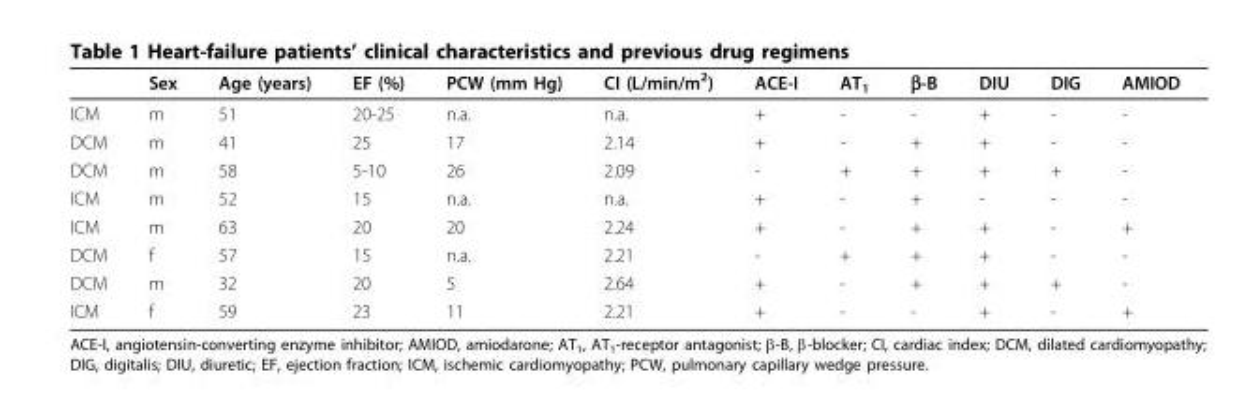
<table><thead><tr><td></td><td>Sex</td><td>Age (years)</td><td>EF (%)</td><td>PCW (mm Hg)</td><td>CI (L/min/m<sup>2</sup>)</td><td>ACE-I</td><td>AT<sub>1</sub></td><td>β-B</td><td>DIU</td><td>DIG</td><td>AMIOD</td></tr></thead><tbody><tr><td>ICM</td><td>m</td><td>51</td><td>20-25</td><td>n.a.</td><td>n.a.</td><td>+</td><td>-</td><td>-</td><td>+</td><td>-</td><td>-</td></tr><tr><td>DCM</td><td>m</td><td>41</td><td>25</td><td>17</td><td>2.14</td><td>+</td><td>-</td><td>+</td><td>+</td><td>-</td><td>-</td></tr><tr><td>DCM</td><td>m</td><td>58</td><td>5-10</td><td>26</td><td>2.09</td><td>-</td><td>+</td><td>+</td><td>+</td><td>+</td><td>-</td></tr><tr><td>ICM</td><td>m</td><td>52</td><td>15</td><td>n.a.</td><td>n.a.</td><td>+</td><td>-</td><td>+</td><td>-</td><td>-</td><td>-</td></tr><tr><td>ICM</td><td>m</td><td>63</td><td>20</td><td>20</td><td>2.24</td><td>+</td><td>-</td><td>+</td><td>+</td><td>-</td><td>+</td></tr><tr><td>DCM</td><td>f</td><td>57</td><td>15</td><td>n.a.</td><td>2.21</td><td>-</td><td>+</td><td>+</td><td>+</td><td>-</td><td>-</td></tr><tr><td>DCM</td><td>m</td><td>32</td><td>20</td><td>5</td><td>2.64</td><td>+</td><td>-</td><td>+</td><td>+</td><td>+</td><td>-</td></tr><tr><td>ICM</td><td>f</td><td>59</td><td>23</td><td>11</td><td>2.21</td><td>+</td><td>-</td><td>-</td><td>+</td><td>-</td><td>+</td></tr></tbody></table>